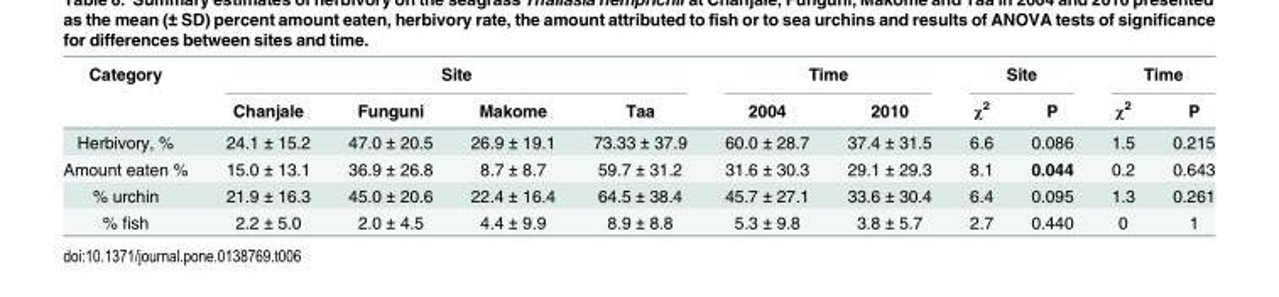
<table><thead><tr><td rowspan="2">Category</td><td colspan="4">Site</td><td colspan="2">Time</td><td colspan="2">Site</td><td colspan="2">Time</td></tr><tr><td>Chanjale</td><td>Funguni</td><td>Makome</td><td>Taa</td><td>2004</td><td>2010</td><td>χ<sup>2</sup></td><td>P</td><td>χ<sup>2</sup></td><td>P</td></tr></thead><tbody><tr><td>Herbivory, %</td><td>24.1 ± 15.2</td><td>47.0 ± 20.5</td><td>26.9 ± 19.1</td><td>73.33 ± 37.9</td><td>60.0 ± 28.7</td><td>37.4 ± 31.5</td><td>6.6</td><td>0.086</td><td>1.5</td><td>0.215</td></tr><tr><td>Amount eaten %</td><td>15.0 ± 13.1</td><td>36.9 ± 26.8</td><td>8.7 ± 8.7</td><td>59.7 ± 31.2</td><td>31.6 ± 30.3</td><td>29.1 ± 29.3</td><td>8.1</td><td>0.044</td><td>0.2</td><td>0.643</td></tr><tr><td>% urchin</td><td>21.9 ± 16.3</td><td>45.0 ± 20.6</td><td>22.4 ± 16.4</td><td>64.5 ± 38.4</td><td>45.7 ± 27.1</td><td>33.6 ± 30.4</td><td>6.4</td><td>0.095</td><td>1.3</td><td>0.261</td></tr><tr><td>% fish</td><td>2.2 ± 5.0</td><td>2.0 ± 4.5</td><td>4.4 ± 9.9</td><td>8.9 ± 8.8</td><td>5.3 ± 9.8</td><td>3.8 ± 5.7</td><td>2.7</td><td>0.440</td><td>0</td><td>1</td></tr></tbody></table>